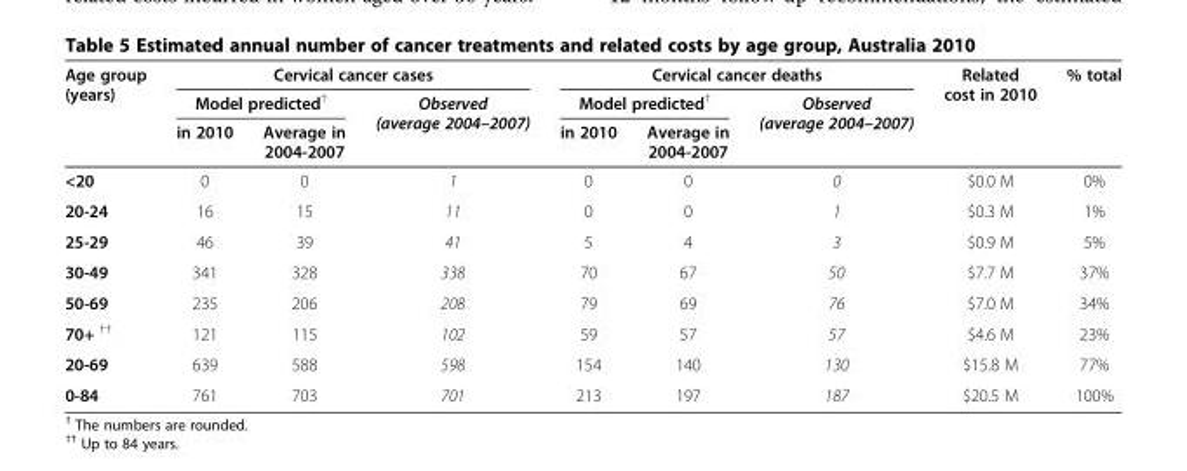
<table><thead><tr><td rowspan="3">Age group (years)</td><td colspan="3">Cervical cancer cases</td><td colspan="3">Cervical cancer deaths</td><td rowspan="3">Related cost in 2010</td><td rowspan="3">% total</td></tr><tr><td colspan="2">Model predicted<sup>†</sup></td><td rowspan="2">Observed (average 2004–2007)</td><td colspan="2">Model predicted<sup>†</sup></td><td rowspan="2">Observed (average 2004–2007)</td></tr><tr><td>in 2010</td><td>Average in 2004-2007</td><td>in 2010</td><td>Average in 2004-2007</td></tr></thead><tbody><tr><td>&lt;20</td><td>0</td><td>0</td><td>1</td><td>0</td><td>0</td><td>0</td><td>$0.0 M</td><td>0%</td></tr><tr><td>20-24</td><td>16</td><td>15</td><td>11</td><td>0</td><td>0</td><td>1</td><td>$0.3 M</td><td>1%</td></tr><tr><td>25-29</td><td>46</td><td>39</td><td>41</td><td>5</td><td>4</td><td>3</td><td>$0.9 M</td><td>5%</td></tr><tr><td>30-49</td><td>341</td><td>328</td><td>338</td><td>70</td><td>67</td><td>50</td><td>$7.7 M</td><td>37%</td></tr><tr><td>50-69</td><td>235</td><td>206</td><td>208</td><td>79</td><td>69</td><td>76</td><td>$7.0 M</td><td>34%</td></tr><tr><td>70+ <sup>††</sup></td><td>121</td><td>115</td><td>102</td><td>59</td><td>57</td><td>57</td><td>$4.6 M</td><td>23%</td></tr><tr><td>20-69</td><td>639</td><td>588</td><td>598</td><td>154</td><td>140</td><td>130</td><td>$15.8 M</td><td>77%</td></tr><tr><td>0-84</td><td>761</td><td>703</td><td>701</td><td>213</td><td>197</td><td>187</td><td>$20.5 M</td><td>100%</td></tr></tbody></table>